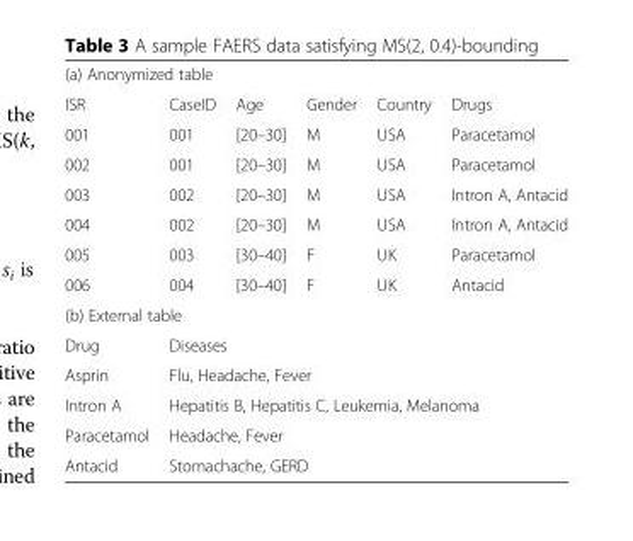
<table><tbody><tr><td colspan="6">(a) Anonymized table</td></tr><tr><td>ISR</td><td>CaseID</td><td>Age</td><td>Gender</td><td>Country</td><td>Drugs</td></tr><tr><td>001</td><td>001</td><td>[20–30]</td><td>M</td><td>USA</td><td>Paracetamol</td></tr><tr><td>002</td><td>001</td><td>[20–30]</td><td>M</td><td>USA</td><td>Paracetamol</td></tr><tr><td>003</td><td>002</td><td>[20–30]</td><td>M</td><td>USA</td><td>Intron A, Antacid</td></tr><tr><td>004</td><td>002</td><td>[20–30]</td><td>M</td><td>USA</td><td>Intron A, Antacid</td></tr><tr><td>005</td><td>003</td><td>[30–40]</td><td>F</td><td>UK</td><td>Paracetamol</td></tr><tr><td>006</td><td>004</td><td>[30–40]</td><td>F</td><td>UK</td><td>Antacid</td></tr><tr><td colspan="6">(b) External table</td></tr><tr><td>Drug</td><td colspan="5">Diseases</td></tr><tr><td>Asprin</td><td colspan="5">Flu, Headache, Fever</td></tr><tr><td>Intron A</td><td colspan="5">Hepatitis B, Hepatitis C, Leukemia, Melanoma</td></tr><tr><td>Paracetamol</td><td colspan="5">Headache, Fever</td></tr><tr><td>Antacid</td><td colspan="5">Stomachache, GERD</td></tr></tbody></table>